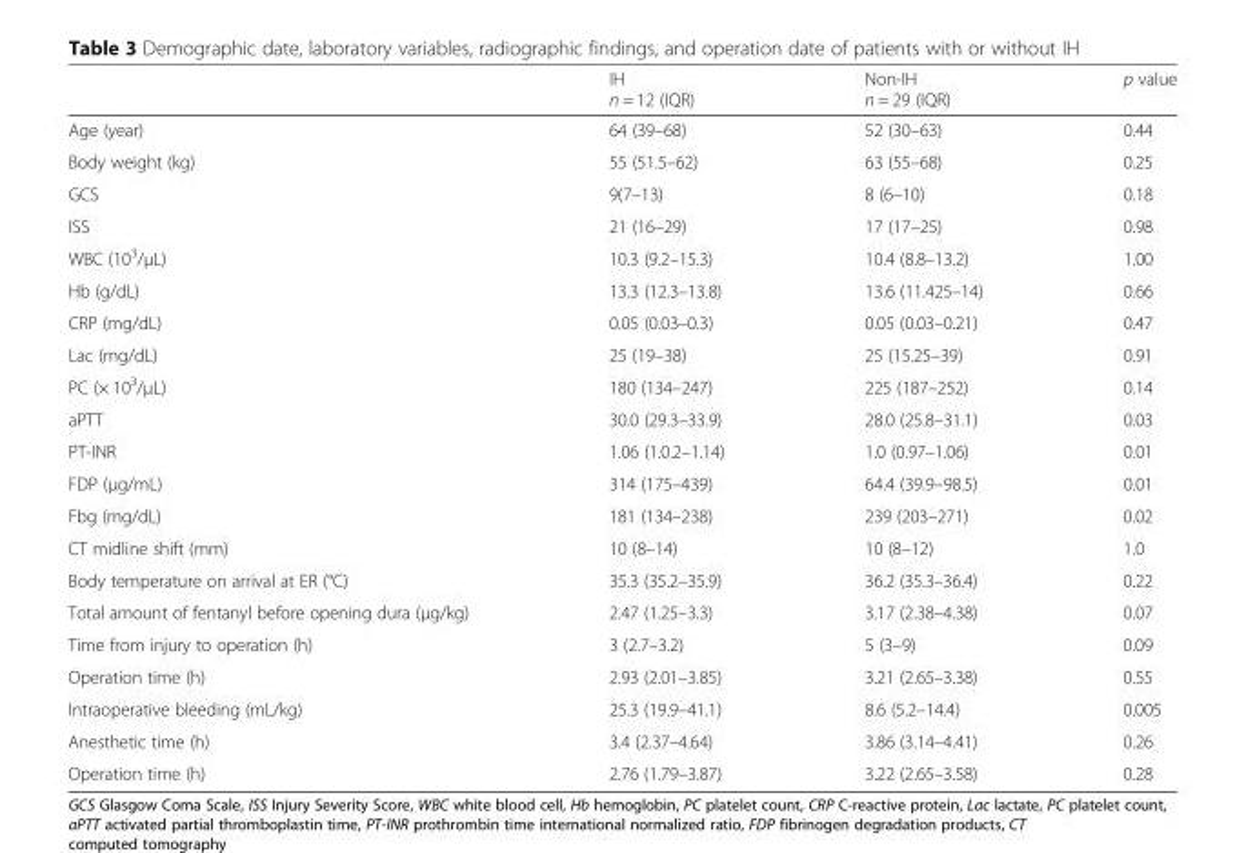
<table><thead><tr><td></td><td>IH n = 12 (IQR)</td><td>Non-IH n = 29 (IQR)</td><td>p value</td></tr></thead><tbody><tr><td>Age (year)</td><td>64 (39–68)</td><td>52 (30–63)</td><td>0.44</td></tr><tr><td>Body weight (kg)</td><td>55 (51.5–62)</td><td>63 (55–68)</td><td>0.25</td></tr><tr><td>GCS</td><td>9(7–13)</td><td>8 (6–10)</td><td>0.18</td></tr><tr><td>ISS</td><td>21 (16–29)</td><td>17 (17–25)</td><td>0.98</td></tr><tr><td>WBC (10<sup>3</sup>/μL)</td><td>10.3 (9.2–15.3)</td><td>10.4 (8.8–13.2)</td><td>1.00</td></tr><tr><td>Hb (g/dL)</td><td>13.3 (12.3–13.8)</td><td>13.6 (11.425–14)</td><td>0.66</td></tr><tr><td>CRP (mg/dL)</td><td>0.05 (0.03–0.3)</td><td>0.05 (0.03–0.21)</td><td>0.47</td></tr><tr><td>Lac (mg/dL)</td><td>25 (19–38)</td><td>25 (15.25–39)</td><td>0.91</td></tr><tr><td>PC (× 10<sup>3</sup>/μL)</td><td>180 (134–247)</td><td>225 (187–252)</td><td>0.14</td></tr><tr><td>aPTT</td><td>30.0 (29.3–33.9)</td><td>28.0 (25.8–31.1)</td><td>0.03</td></tr><tr><td>PT-INR</td><td>1.06 (1.0.2–1.14)</td><td>1.0 (0.97–1.06)</td><td>0.01</td></tr><tr><td>FDP (μg/mL)</td><td>314 (175–439)</td><td>64.4 (39.9–98.5)</td><td>0.01</td></tr><tr><td>Fbg (mg/dL)</td><td>181 (134–238)</td><td>239 (203–271)</td><td>0.02</td></tr><tr><td>CT midline shift (mm)</td><td>10 (8–14)</td><td>10 (8–12)</td><td>1.0</td></tr><tr><td>Body temperature on arrival at ER (°C)</td><td>35.3 (35.2–35.9)</td><td>36.2 (35.3–36.4)</td><td>0.22</td></tr><tr><td>Total amount of fentanyl before opening dura (μg/kg)</td><td>2.47 (1.25–3.3)</td><td>3.17 (2.38–4.38)</td><td>0.07</td></tr><tr><td>Time from injury to operation (h)</td><td>3 (2.7–3.2)</td><td>5 (3–9)</td><td>0.09</td></tr><tr><td>Operation time (h)</td><td>2.93 (2.01–3.85)</td><td>3.21 (2.65–3.38)</td><td>0.55</td></tr><tr><td>Intraoperative bleeding (mL/kg)</td><td>25.3 (19.9–41.1)</td><td>8.6 (5.2–14.4)</td><td>0.005</td></tr><tr><td>Anesthetic time (h)</td><td>3.4 (2.37–4.64)</td><td>3.86 (3.14–4.41)</td><td>0.26</td></tr><tr><td>Operation time (h)</td><td>2.76 (1.79–3.87)</td><td>3.22 (2.65–3.58)</td><td>0.28</td></tr></tbody></table>